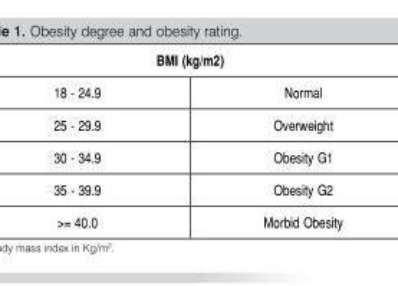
<table><thead><tr><td colspan="2">BMI (kg/m2)</td></tr><tr><td>18 - 24.9</td><td>Normal</td></tr></thead><tbody><tr><td>25 - 29.9</td><td>Overweight</td></tr><tr><td>30 - 34.9</td><td>Obesity G1</td></tr><tr><td>35 - 39.9</td><td>Obesity G2</td></tr><tr><td>&gt;= 40.0</td><td>Morbid Obesity</td></tr></tbody></table>